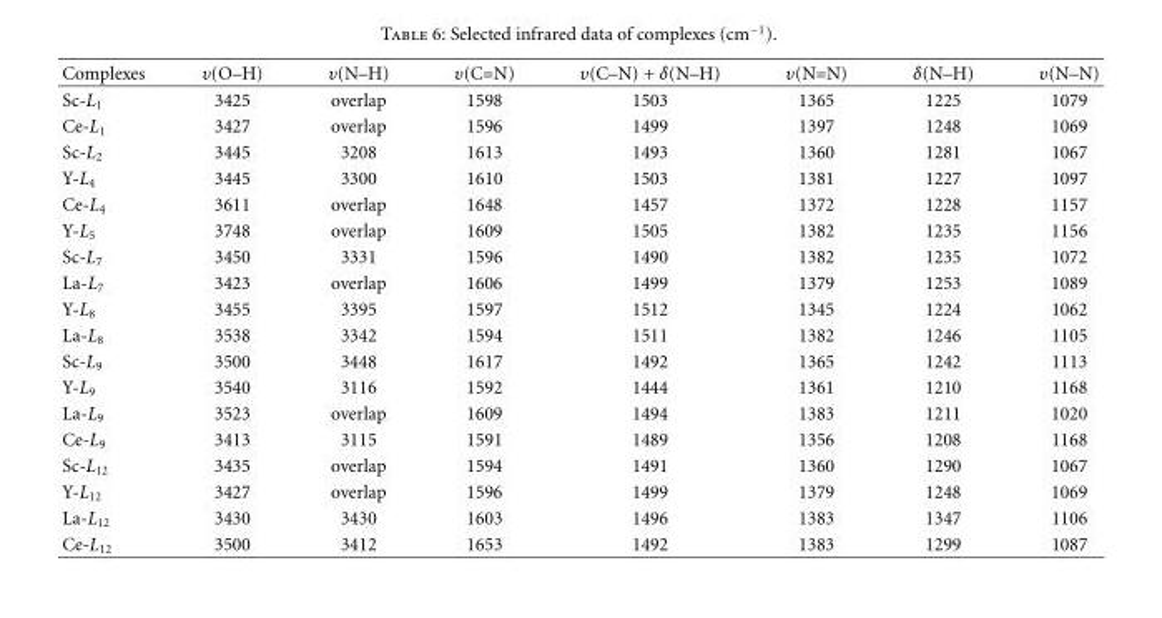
<table><thead><tr><td>Complexes</td><td>υ(O–H)</td><td>υ(N–H)</td><td>υ(C=N)</td><td>υ(C–N) + δ(N–H)</td><td>υ(N=N)</td><td>δ(N–H)</td><td>υ(N–N)</td></tr></thead><tbody><tr><td>Sc-L<sub>1</sub></td><td>3425</td><td>overlap</td><td>1598</td><td>1503</td><td>1365</td><td>1225</td><td>1079</td></tr><tr><td>Ce-L<sub>1</sub></td><td>3427</td><td>overlap</td><td>1596</td><td>1499</td><td>1397</td><td>1248</td><td>1069</td></tr><tr><td>Sc-L<sub>2</sub></td><td>3445</td><td>3208</td><td>1613</td><td>1493</td><td>1360</td><td>1281</td><td>1067</td></tr><tr><td>Y-L<sub>4</sub></td><td>3445</td><td>3300</td><td>1610</td><td>1503</td><td>1381</td><td>1227</td><td>1097</td></tr><tr><td>Ce-L<sub>4</sub></td><td>3611</td><td>overlap</td><td>1648</td><td>1457</td><td>1372</td><td>1228</td><td>1157</td></tr><tr><td>Y-L<sub>5</sub></td><td>3748</td><td>overlap</td><td>1609</td><td>1505</td><td>1382</td><td>1235</td><td>1156</td></tr><tr><td>Sc-L<sub>7</sub></td><td>3450</td><td>3331</td><td>1596</td><td>1490</td><td>1382</td><td>1235</td><td>1072</td></tr><tr><td>La-L<sub>7</sub></td><td>3423</td><td>overlap</td><td>1606</td><td>1499</td><td>1379</td><td>1253</td><td>1089</td></tr><tr><td>Y-L<sub>8</sub></td><td>3455</td><td>3395</td><td>1597</td><td>1512</td><td>1345</td><td>1224</td><td>1062</td></tr><tr><td>La-L<sub>8</sub></td><td>3538</td><td>3342</td><td>1594</td><td>1511</td><td>1382</td><td>1246</td><td>1105</td></tr><tr><td>Sc-L<sub>9</sub></td><td>3500</td><td>3448</td><td>1617</td><td>1492</td><td>1365</td><td>1242</td><td>1113</td></tr><tr><td>Y-L<sub>9</sub></td><td>3540</td><td>3116</td><td>1592</td><td>1444</td><td>1361</td><td>1210</td><td>1168</td></tr><tr><td>La-L<sub>9</sub></td><td>3523</td><td>overlap</td><td>1609</td><td>1494</td><td>1383</td><td>1211</td><td>1020</td></tr><tr><td>Ce-L<sub>9</sub></td><td>3413</td><td>3115</td><td>1591</td><td>1489</td><td>1356</td><td>1208</td><td>1168</td></tr><tr><td>Sc-L<sub>12</sub></td><td>3435</td><td>overlap</td><td>1594</td><td>1491</td><td>1360</td><td>1290</td><td>1067</td></tr><tr><td>Y-L<sub>12</sub></td><td>3427</td><td>overlap</td><td>1596</td><td>1499</td><td>1379</td><td>1248</td><td>1069</td></tr><tr><td>La-L<sub>12</sub></td><td>3430</td><td>3430</td><td>1603</td><td>1496</td><td>1383</td><td>1347</td><td>1106</td></tr><tr><td>Ce-L<sub>12</sub></td><td>3500</td><td>3412</td><td>1653</td><td>1492</td><td>1383</td><td>1299</td><td>1087</td></tr></tbody></table>